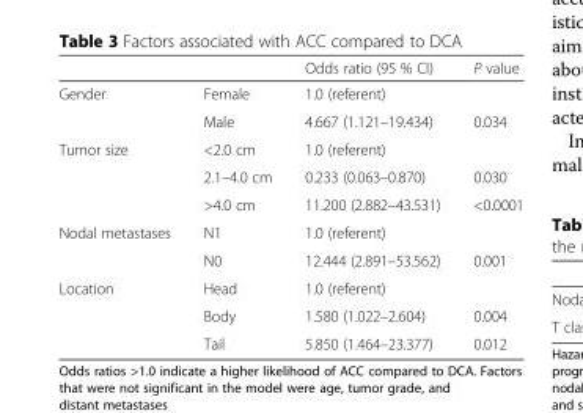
<table><thead><tr><td></td><td></td><td>Odds ratio (95 % CI)</td><td>P value</td></tr></thead><tbody><tr><td rowspan="2">Gender</td><td>Female</td><td>1.0 (referent)</td><td></td></tr><tr><td>Male</td><td>4.667 (1.121–19.434)</td><td>0.034</td></tr><tr><td rowspan="3">Tumor size</td><td>&lt;2.0 cm</td><td>1.0 (referent)</td><td></td></tr><tr><td>2.1–4.0 cm</td><td>0.233 (0.063–0.870)</td><td>0.030</td></tr><tr><td>&gt;4.0 cm</td><td>11.200 (2.882–43.531)</td><td>&lt;0.0001</td></tr><tr><td rowspan="2">Nodal metastases</td><td>N1</td><td>1.0 (referent)</td><td></td></tr><tr><td>N0</td><td>12.444 (2.891–53.562)</td><td>0.001</td></tr><tr><td rowspan="3">Location</td><td>Head</td><td>1.0 (referent)</td><td></td></tr><tr><td>Body</td><td>1.580 (1.022–2.604)</td><td>0.004</td></tr><tr><td>Tail</td><td>5.850 (1.464–23.377)</td><td>0.012</td></tr></tbody></table>